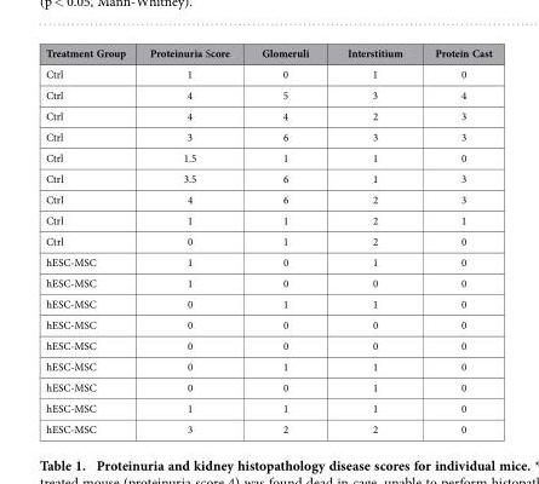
<table><thead><tr><td>Treatment Group</td><td>Proteinuria Score</td><td>Glomeruli</td><td>Interstitium</td><td>Protein Cast</td></tr></thead><tbody><tr><td>Ctrl</td><td>1</td><td>0</td><td>1</td><td>0</td></tr><tr><td>Ctrl</td><td>4</td><td>5</td><td>3</td><td>4</td></tr><tr><td>Ctrl</td><td>4</td><td>4</td><td>2</td><td>3</td></tr><tr><td>Ctrl</td><td>3</td><td>6</td><td>3</td><td>3</td></tr><tr><td>Ctrl</td><td>1.5</td><td>1</td><td>1</td><td>0</td></tr><tr><td>Ctrl</td><td>3.5</td><td>6</td><td>1</td><td>3</td></tr><tr><td>Ctrl</td><td>4</td><td>6</td><td>2</td><td>3</td></tr><tr><td>Ctrl</td><td>1</td><td>1</td><td>2</td><td>1</td></tr><tr><td>Ctrl</td><td>0</td><td>1</td><td>2</td><td>0</td></tr><tr><td>hESC-MSC</td><td>1</td><td>0</td><td>1</td><td>0</td></tr><tr><td>hESC-MSC</td><td>1</td><td>0</td><td>0</td><td>0</td></tr><tr><td>hESC-MSC</td><td>0</td><td>1</td><td>1</td><td>0</td></tr><tr><td>hESC-MSC</td><td>0</td><td>0</td><td>0</td><td>0</td></tr><tr><td>hESC-MSC</td><td>0</td><td>0</td><td>0</td><td>0</td></tr><tr><td>hESC-MSC</td><td>0</td><td>1</td><td>1</td><td>0</td></tr><tr><td>hESC-MSC</td><td>0</td><td>0</td><td>1</td><td>0</td></tr><tr><td>hESC-MSC</td><td>1</td><td>1</td><td>1</td><td>0</td></tr><tr><td>hESC-MSC</td><td>3</td><td>2</td><td>2</td><td>0</td></tr></tbody></table>